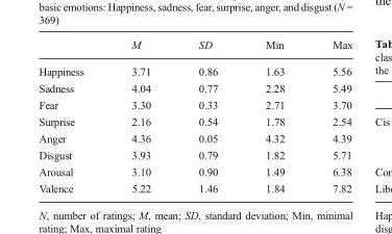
<table><thead><tr><td></td><td>M</td><td>SD</td><td>Min</td><td>Max</td></tr></thead><tbody><tr><td>Happiness</td><td>3.71</td><td>0.86</td><td>1.63</td><td>5.56</td></tr><tr><td>Sadness</td><td>4.04</td><td>0.77</td><td>2.28</td><td>5.49</td></tr><tr><td>Fear</td><td>3.30</td><td>0.33</td><td>2.71</td><td>3.70</td></tr><tr><td>Surprise</td><td>2.16</td><td>0.54</td><td>1.78</td><td>2.54</td></tr><tr><td>Anger</td><td>4.36</td><td>0.05</td><td>4.32</td><td>4.39</td></tr><tr><td>Disgust</td><td>3.93</td><td>0.79</td><td>1.82</td><td>5.71</td></tr><tr><td>Arousal</td><td>3.10</td><td>0.90</td><td>1.49</td><td>6.38</td></tr><tr><td>Valence</td><td>5.22</td><td>1.46</td><td>1.84</td><td>7.82</td></tr></tbody></table>